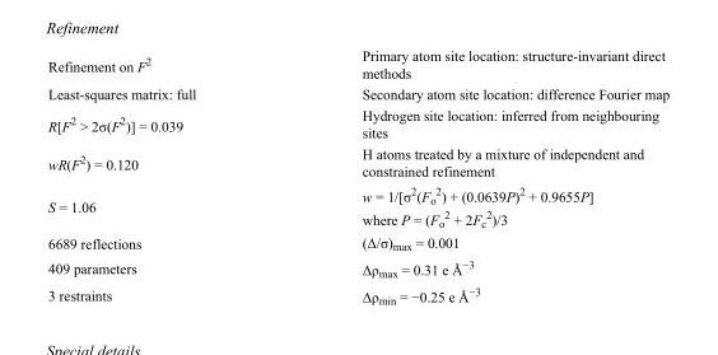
<table><tbody><tr><td>Refinement on F<sup>2</sup></td><td>Primary atom site location: structure-invariant direct methods</td></tr><tr><td>Least-squares matrix: full</td><td>Secondary atom site location: difference Fourier map</td></tr><tr><td>R[F<sup>2</sup> &gt; 2σ(F<sup>2</sup>)] = 0.039</td><td>Hydrogen site location: inferred from neighbouring sites</td></tr><tr><td>wR(F<sup>2</sup>) = 0.120</td><td>H atoms treated by a mixture of independent and constrained refinement</td></tr><tr><td>S = 1.06</td><td>w = 1/[σ<sup>2</sup>(F<sub>o</sub> <sup>2</sup>) + (0.0639P)<sup>2</sup> + 0.9655P] where P = (F<sub>o</sub> <sup>2</sup> + 2F<sub>c</sub> <sup>2</sup>)/3</td></tr><tr><td>6689 reflections</td><td>(Δ/σ)<sub>max</sub> = 0.001</td></tr><tr><td>409 parameters</td><td>Δρ<sub>max</sub> = 0.31 e Å<sup>−3</sup></td></tr><tr><td>3 restraints</td><td>Δρ<sub>min</sub> = −0.25 e Å<sup>−3</sup></td></tr></tbody></table>